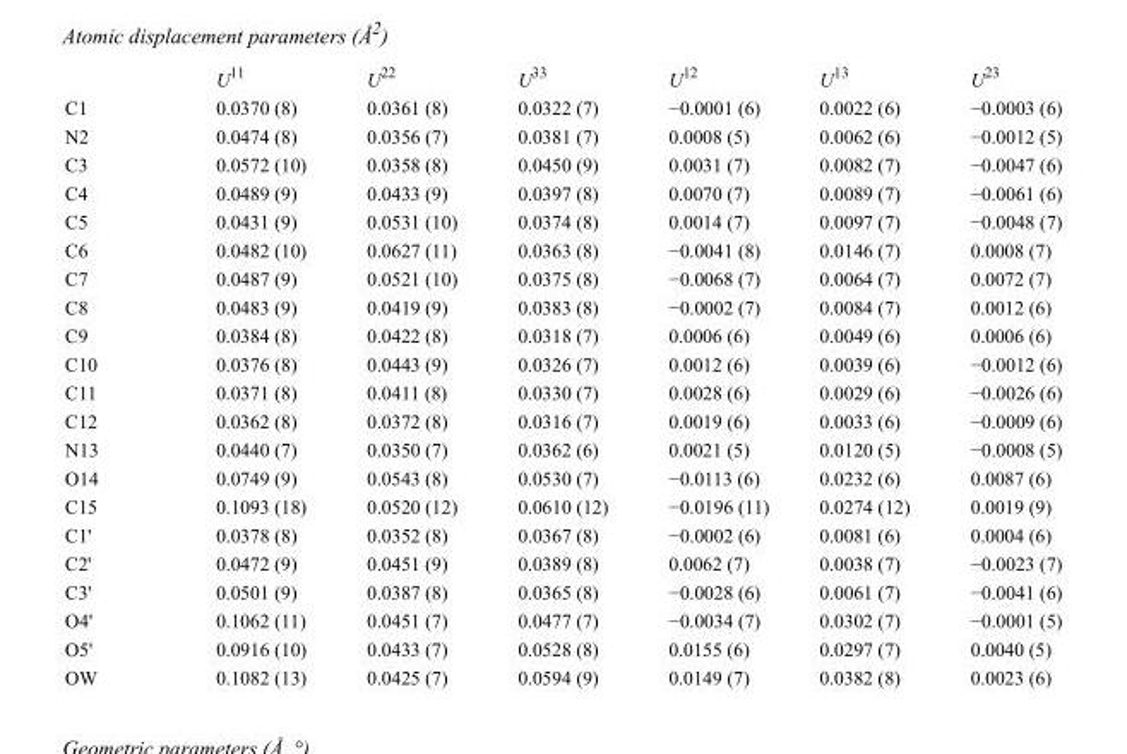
<table><thead><tr><td></td><td>U<sup>11</sup></td><td>U<sup>22</sup></td><td>U<sup>33</sup></td><td>U<sup>12</sup></td><td>U<sup>13</sup></td><td>U<sup>23</sup></td></tr></thead><tbody><tr><td>C1</td><td>0.0370 (8)</td><td>0.0361 (8)</td><td>0.0322 (7)</td><td>−0.0001 (6)</td><td>0.0022 (6)</td><td>−0.0003 (6)</td></tr><tr><td>N2</td><td>0.0474 (8)</td><td>0.0356 (7)</td><td>0.0381 (7)</td><td>0.0008 (5)</td><td>0.0062 (6)</td><td>−0.0012 (5)</td></tr><tr><td>C3</td><td>0.0572 (10)</td><td>0.0358 (8)</td><td>0.0450 (9)</td><td>0.0031 (7)</td><td>0.0082 (7)</td><td>−0.0047 (6)</td></tr><tr><td>C4</td><td>0.0489 (9)</td><td>0.0433 (9)</td><td>0.0397 (8)</td><td>0.0070 (7)</td><td>0.0089 (7)</td><td>−0.0061 (6)</td></tr><tr><td>C5</td><td>0.0431 (9)</td><td>0.0531 (10)</td><td>0.0374 (8)</td><td>0.0014 (7)</td><td>0.0097 (7)</td><td>−0.0048 (7)</td></tr><tr><td>C6</td><td>0.0482 (10)</td><td>0.0627 (11)</td><td>0.0363 (8)</td><td>−0.0041 (8)</td><td>0.0146 (7)</td><td>0.0008 (7)</td></tr><tr><td>C7</td><td>0.0487 (9)</td><td>0.0521 (10)</td><td>0.0375 (8)</td><td>−0.0068 (7)</td><td>0.0064 (7)</td><td>0.0072 (7)</td></tr><tr><td>C8</td><td>0.0483 (9)</td><td>0.0419 (9)</td><td>0.0383 (8)</td><td>−0.0002 (7)</td><td>0.0084 (7)</td><td>0.0012 (6)</td></tr><tr><td>C9</td><td>0.0384 (8)</td><td>0.0422 (8)</td><td>0.0318 (7)</td><td>0.0006 (6)</td><td>0.0049 (6)</td><td>0.0006 (6)</td></tr><tr><td>C10</td><td>0.0376 (8)</td><td>0.0443 (9)</td><td>0.0326 (7)</td><td>0.0012 (6)</td><td>0.0039 (6)</td><td>−0.0012 (6)</td></tr><tr><td>C11</td><td>0.0371 (8)</td><td>0.0411 (8)</td><td>0.0330 (7)</td><td>0.0028 (6)</td><td>0.0029 (6)</td><td>−0.0026 (6)</td></tr><tr><td>C12</td><td>0.0362 (8)</td><td>0.0372 (8)</td><td>0.0316 (7)</td><td>0.0019 (6)</td><td>0.0033 (6)</td><td>−0.0009 (6)</td></tr><tr><td>N13</td><td>0.0440 (7)</td><td>0.0350 (7)</td><td>0.0362 (6)</td><td>0.0021 (5)</td><td>0.0120 (5)</td><td>−0.0008 (5)</td></tr><tr><td>O14</td><td>0.0749 (9)</td><td>0.0543 (8)</td><td>0.0530 (7)</td><td>−0.0113 (6)</td><td>0.0232 (6)</td><td>0.0087 (6)</td></tr><tr><td>C15</td><td>0.1093 (18)</td><td>0.0520 (12)</td><td>0.0610 (12)</td><td>−0.0196 (11)</td><td>0.0274 (12)</td><td>0.0019 (9)</td></tr><tr><td>C1&#x27;</td><td>0.0378 (8)</td><td>0.0352 (8)</td><td>0.0367 (8)</td><td>−0.0002 (6)</td><td>0.0081 (6)</td><td>0.0004 (6)</td></tr><tr><td>C2&#x27;</td><td>0.0472 (9)</td><td>0.0451 (9)</td><td>0.0389 (8)</td><td>0.0062 (7)</td><td>0.0038 (7)</td><td>−0.0023 (7)</td></tr><tr><td>C3&#x27;</td><td>0.0501 (9)</td><td>0.0387 (8)</td><td>0.0365 (8)</td><td>−0.0028 (6)</td><td>0.0061 (7)</td><td>−0.0041 (6)</td></tr><tr><td>O4&#x27;</td><td>0.1062 (11)</td><td>0.0451 (7)</td><td>0.0477 (7)</td><td>−0.0034 (7)</td><td>0.0302 (7)</td><td>−0.0001 (5)</td></tr><tr><td>O5&#x27;</td><td>0.0916 (10)</td><td>0.0433 (7)</td><td>0.0528 (8)</td><td>0.0155 (6)</td><td>0.0297 (7)</td><td>0.0040 (5)</td></tr><tr><td>OW</td><td>0.1082 (13)</td><td>0.0425 (7)</td><td>0.0594 (9)</td><td>0.0149 (7)</td><td>0.0382 (8)</td><td>0.0023 (6)</td></tr></tbody></table>